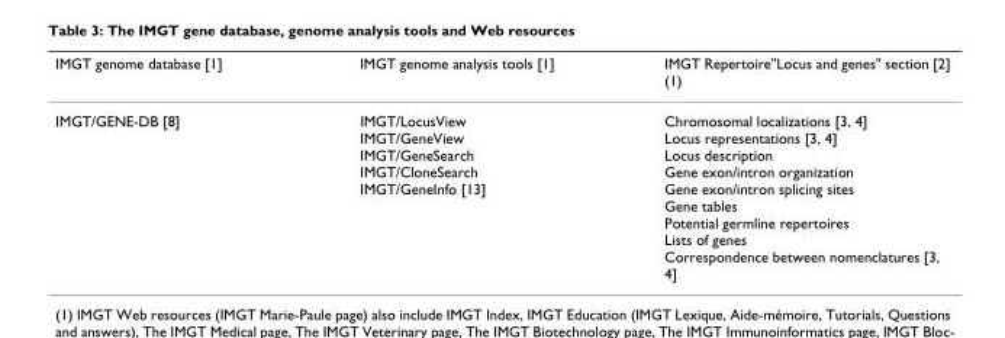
<table><thead><tr><td>IMGT genome database [1]</td><td>IMGT genome analysis tools [1]</td><td>IMGT Repertoire&quot;Locus and genes&quot; section [2] (1)</td></tr></thead><tbody><tr><td>IMGT/GENE-DB [8]</td><td>IMGT/LocusView IMGT/GeneView IMGT/GeneSearch IMGT/CloneSearch IMGT/GeneInfo [13]</td><td>Chromosomal localizations [3, 4] Locus representations [3, 4] Locus description Gene exon/intron organization Gene exon/intron splicing sites Gene tables Potential germline repertoires Lists of genes Correspondence between nomenclatures [3, 4]</td></tr></tbody></table>